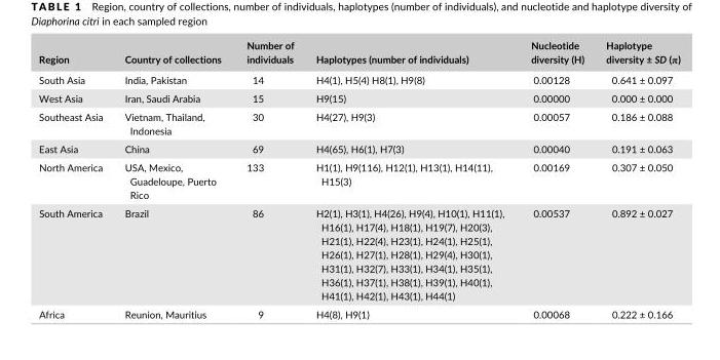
<table><thead><tr><td>Region</td><td>Country of collections</td><td>Number of individuals</td><td>Haplotypes (number of individuals)</td><td>Nucleotide diversity (H)</td><td>Haplotype diversity ± SD (π)</td></tr></thead><tbody><tr><td>South Asia</td><td>India, Pakistan</td><td>14</td><td>H4(1), H5(4) H8(1), H9(8)</td><td>0.00128</td><td>0.641 ± 0.097</td></tr><tr><td>West Asia</td><td>Iran, Saudi Arabia</td><td>15</td><td>H9(15)</td><td>0.00000</td><td>0.000 ± 0.000</td></tr><tr><td>Southeast Asia</td><td>Vietnam, Thailand, Indonesia</td><td>30</td><td>H4(27), H9(3)</td><td>0.00057</td><td>0.186 ± 0.088</td></tr><tr><td>East Asia</td><td>China</td><td>69</td><td>H4(65), H6(1), H7(3)</td><td>0.00040</td><td>0.191 ± 0.063</td></tr><tr><td>North America</td><td>USA, Mexico, Guadeloupe, Puerto Rico</td><td>133</td><td>H1(1), H9(116), H12(1), H13(1), H14(11), H15(3)</td><td>0.00169</td><td>0.307 ± 0.050</td></tr><tr><td>South America</td><td>Brazil</td><td>86</td><td>H2(1), H3(1), H4(26), H9(4), H10(1), H11(1), H16(1), H17(4), H18(1), H19(7), H20(3), H21(1), H22(4), H23(1), H24(1), H25(1), H26(1), H27(1), H28(1), H29(4), H30(1), H31(1), H32(7), H33(1), H34(1), H35(1), H36(1), H37(1), H38(1), H39(1), H40(1), H41(1), H42(1), H43(1), H44(1)</td><td>0.00537</td><td>0.892 ± 0.027</td></tr><tr><td>Africa</td><td>Reunion, Mauritius</td><td>9</td><td>H4(8), H9(1)</td><td>0.00068</td><td>0.222 ± 0.166</td></tr></tbody></table>